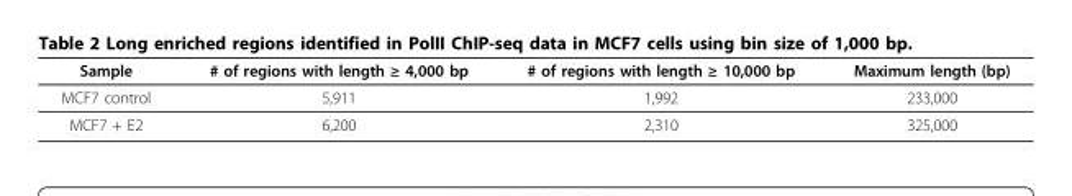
<table><thead><tr><td>Sample</td><td># of regions with length ≥ 4,000 bp</td><td># of regions with length ≥ 10,000 bp</td><td>Maximum length (bp)</td></tr></thead><tbody><tr><td>MCF7 control</td><td>5,911</td><td>1,992</td><td>233,000</td></tr><tr><td>MCF7 + E2</td><td>6,200</td><td>2,310</td><td>325,000</td></tr></tbody></table>